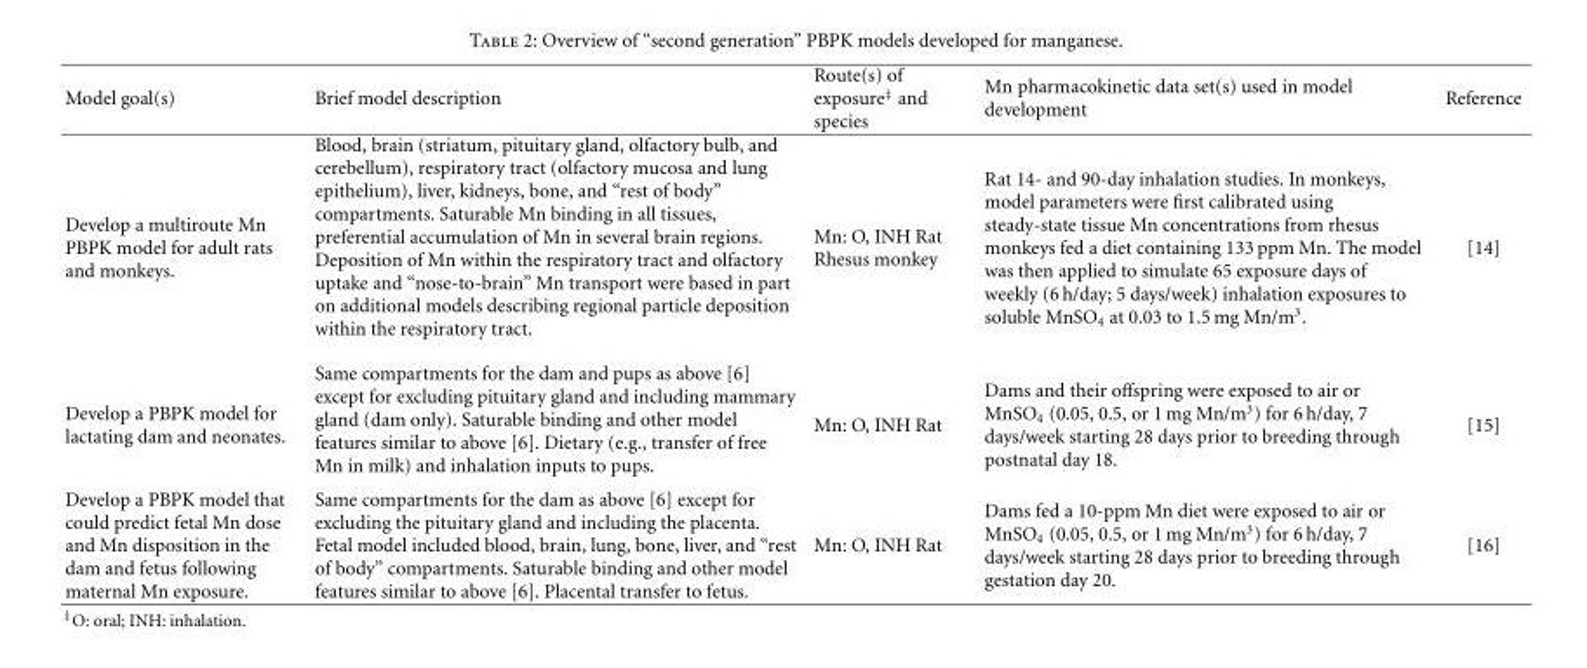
<table><thead><tr><td>Model goal(s)</td><td>Brief model description</td><td>Route(s) of exposure<sup>‡</sup> and species</td><td>Mn pharmacokinetic data set(s) used in model development</td><td>Reference</td></tr></thead><tbody><tr><td>Develop a multiroute Mn PBPK model for adult rats and monkeys.</td><td>Blood, brain (striatum, pituitary gland, olfactory bulb, and cerebellum), respiratory tract (olfactory mucosa and lung epithelium), liver, kidneys, bone, and “rest of body” compartments. Saturable Mn binding in all tissues, preferential accumulation of Mn in several brain regions. Deposition of Mn within the respiratory tract and olfactory uptake and “nose-to-brain” Mn transport were based in part on additional models describing regional particle deposition within the respiratory tract.</td><td>Mn: O, INH Rat Rhesus monkey</td><td>Rat 14- and 90-day inhalation studies. In monkeys, model parameters were first calibrated using steady-state tissue Mn concentrations from rhesus monkeys fed a diet containing 133 ppm Mn. The model was then applied to simulate 65 exposure days of weekly (6 h/day; 5 days/week) inhalation exposures to soluble MnSO<sub>4</sub> at 0.03 to 1.5 mg Mn/m<sup>3</sup>.</td><td>[14]</td></tr><tr><td>Develop a PBPK model for lactating dam and neonates.</td><td>Same compartments for the dam and pups as above [6] except for excluding pituitary gland and including mammary gland (dam only). Saturable binding and other model features similar to above [6]. Dietary (e.g., transfer of free Mn in milk) and inhalation inputs to pups.</td><td>Mn: O, INH Rat</td><td>Dams and their offspring were exposed to air or MnSO<sub>4</sub> (0.05, 0.5, or 1 mg Mn/m<sup>3</sup>) for 6 h/day, 7 days/week starting 28 days prior to breeding through postnatal day 18.</td><td>[15]</td></tr><tr><td>Develop a PBPK model that could predict fetal Mn dose and Mn disposition in the dam and fetus following maternal Mn exposure.</td><td>Same compartments for the dam as above [6] except for excluding the pituitary gland and including the placenta. Fetal model included blood, brain, lung, bone, liver, and “rest of body” compartments. Saturable binding and other model features similar to above [6]. Placental transfer to fetus.</td><td>Mn: O, INH Rat</td><td>Dams fed a 10-ppm Mn diet were exposed to air or MnSO<sub>4</sub> (0.05, 0.5, or 1 mg Mn/m<sup>3</sup>) for 6 h/day, 7 days/week starting 28 days prior to breeding through gestation day 20.</td><td>[16]</td></tr></tbody></table>